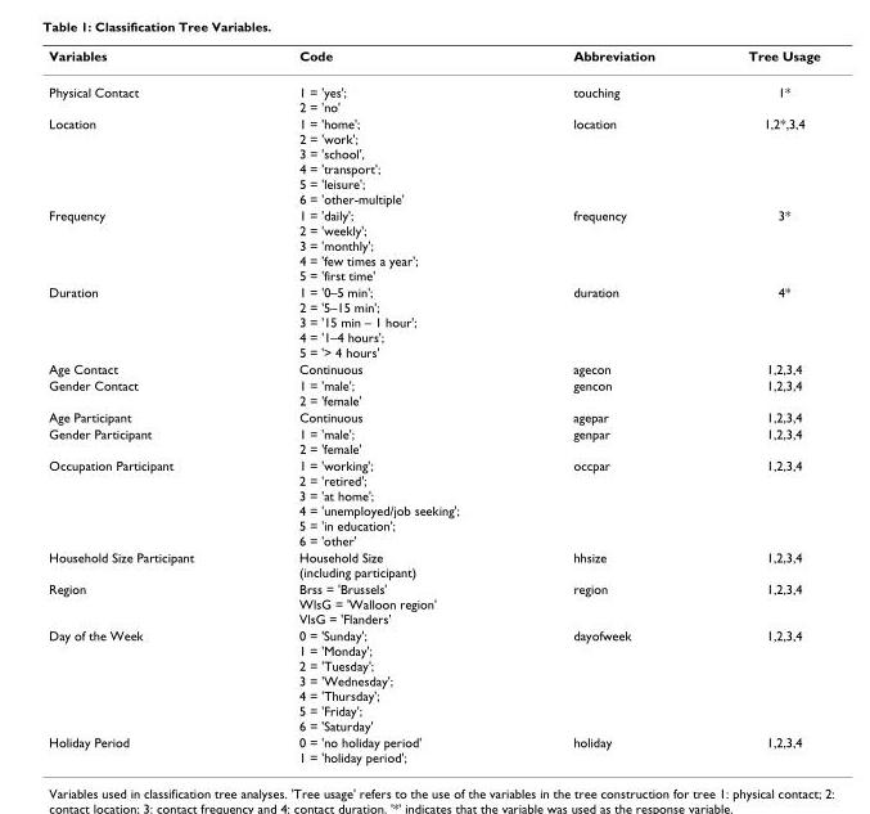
<table><thead><tr><td>Variables</td><td>Code</td><td>Abbreviation</td><td>Tree Usage</td></tr></thead><tbody><tr><td>Physical Contact</td><td>1 = &#x27;yes&#x27;; 2 = &#x27;no&#x27;</td><td>touching</td><td>1*</td></tr><tr><td>Location</td><td>1 = &#x27;home&#x27;; 2 = &#x27;work&#x27;; 3 = &#x27;school&#x27;, 4 = &#x27;transport&#x27;; 5 = &#x27;leisure&#x27;; 6 = &#x27;other-multiple&#x27;</td><td>location</td><td>1,2*,3,4</td></tr><tr><td>Frequency</td><td>1 = &#x27;daily&#x27;; 2 = &#x27;weekly&#x27;; 3 = &#x27;monthly&#x27;; 4 = &#x27;few times a year&#x27;; 5 = &#x27;first time&#x27;</td><td>frequency</td><td>3*</td></tr><tr><td>Duration</td><td>1 = &#x27;0–5 min&#x27;; 2 = &#x27;5–15 min&#x27;; 3 = &#x27;15 min – 1 hour&#x27;; 4 = &#x27;1–4 hours&#x27;; 5 = &#x27;&gt; 4 hours&#x27;</td><td>duration</td><td>4*</td></tr><tr><td>Age Contact</td><td>Continuous</td><td>agecon</td><td>1,2,3,4</td></tr><tr><td>Gender Contact</td><td>1 = &#x27;male&#x27;; 2 = &#x27;female&#x27;</td><td>gencon</td><td>1,2,3,4</td></tr><tr><td>Age Participant</td><td>Continuous</td><td>agepar</td><td>1,2,3,4</td></tr><tr><td>Gender Participant</td><td>1 = &#x27;male&#x27;; 2 = &#x27;female&#x27;</td><td>genpar</td><td>1,2,3,4</td></tr><tr><td>Occupation Participant</td><td>1 = &#x27;working&#x27;; 2 = &#x27;retired&#x27;; 3 = &#x27;at home&#x27;; 4 = &#x27;unemployed/job seeking&#x27;; 5 = &#x27;in education&#x27;; 6 = &#x27;other&#x27;</td><td>occpar</td><td>1,2,3,4</td></tr><tr><td>Household Size Participant</td><td>Household Size (including participant)</td><td>hhsize</td><td>1,2,3,4</td></tr><tr><td>Region</td><td>Brss = &#x27;Brussels&#x27; WlsG = &#x27;Walloon region&#x27; VlsG = &#x27;Flanders&#x27;</td><td>region</td><td>1,2,3,4</td></tr><tr><td>Day of the Week</td><td>0 = &#x27;Sunday&#x27;; 1 = &#x27;Monday&#x27;; 2 = &#x27;Tuesday&#x27;; 3 = &#x27;Wednesday&#x27;; 4 = &#x27;Thursday&#x27;; 5 = &#x27;Friday&#x27;; 6 = &#x27;Saturday&#x27;</td><td>dayofweek</td><td>1,2,3,4</td></tr><tr><td>Holiday Period</td><td>0 = &#x27;no holiday period&#x27; 1 = &#x27;holiday period&#x27;;</td><td>holiday</td><td>1,2,3,4</td></tr></tbody></table>